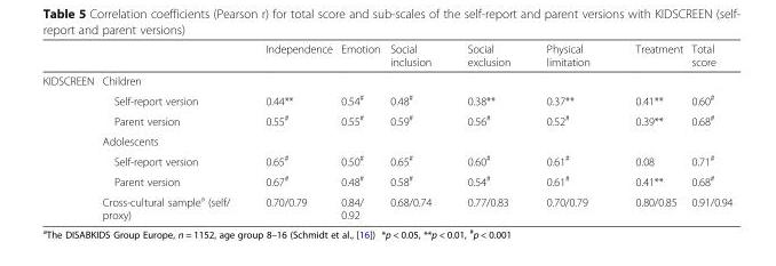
<table><thead><tr><td></td><td></td><td>Independence</td><td>Emotion</td><td>Social inclusion</td><td>Social exclusion</td><td>Physical limitation</td><td>Treatment</td><td>Total score</td></tr></thead><tbody><tr><td rowspan="7">KIDSCREEN</td><td colspan="8">Children</td></tr><tr><td>Self-report version</td><td>0.44**</td><td>0.54<sup>#</sup></td><td>0.48<sup>#</sup></td><td>0.38**</td><td>0.37**</td><td>0.41**</td><td>0.60<sup>#</sup></td></tr><tr><td>Parent version</td><td>0.55<sup>#</sup></td><td>0.55<sup>#</sup></td><td>0.59<sup>#</sup></td><td>0.56<sup>#</sup></td><td>0.52<sup>#</sup></td><td>0.39**</td><td>0.68<sup>#</sup></td></tr><tr><td colspan="8">Adolescents</td></tr><tr><td>Self-report version</td><td>0.65<sup>#</sup></td><td>0.50<sup>#</sup></td><td>0.65<sup>#</sup></td><td>0.60<sup>#</sup></td><td>0.61<sup>#</sup></td><td>0.08</td><td>0.71<sup>#</sup></td></tr><tr><td>Parent version</td><td>0.67<sup>#</sup></td><td>0.48<sup>#</sup></td><td>0.58<sup>#</sup></td><td>0.54<sup>#</sup></td><td>0.61<sup>#</sup></td><td>0.41**</td><td>0.68<sup>#</sup></td></tr><tr><td>Cross-cultural sample<sup>a</sup> (self/ proxy)</td><td>0.70/0.79</td><td>0.84/ 0.92</td><td>0.68/0.74</td><td>0.77/0.83</td><td>0.70/0.79</td><td>0.80/0.85</td><td>0.91/0.94</td></tr></tbody></table>